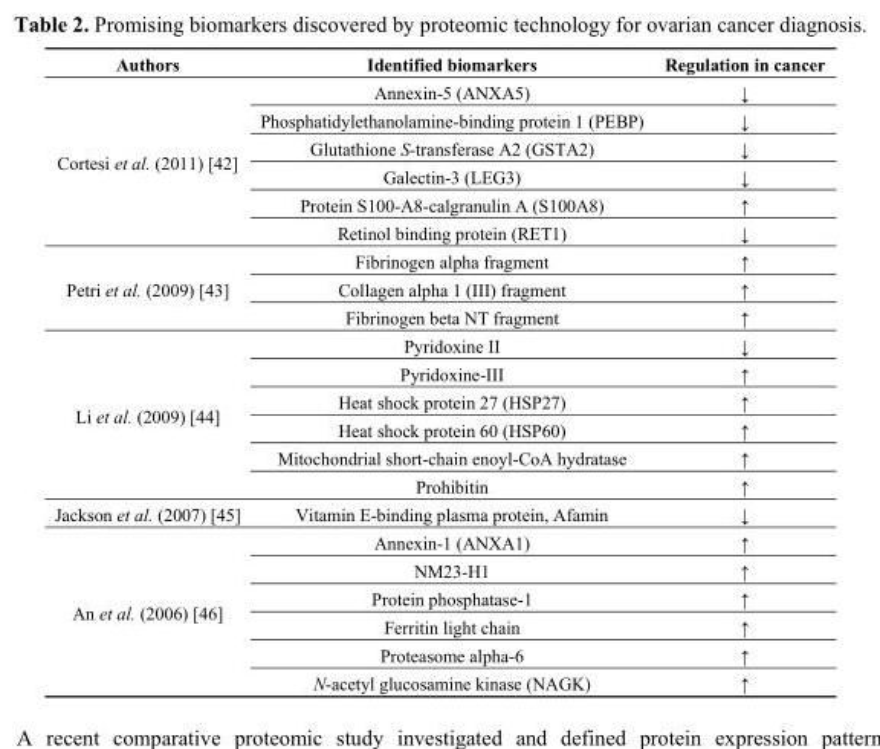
<table><thead><tr><td>Authors</td><td>Identified biomarkers</td><td>Regulation in cancer</td></tr></thead><tbody><tr><td rowspan="6">Cortesi et al. (2011) [42]</td><td>Annexin-5 (ANXA5)</td><td>↓</td></tr><tr><td>Phosphatidylethanolamine-binding protein 1 (PEBP)</td><td>↓</td></tr><tr><td>Glutathione S-transferase A2 (GSTA2)</td><td>↓</td></tr><tr><td>Galectin-3 (LEG3)</td><td>↓</td></tr><tr><td>Protein S100-A8-calgranulin A (S100A8)</td><td>↑</td></tr><tr><td>Retinol binding protein (RET1)</td><td>↓</td></tr><tr><td rowspan="3">Petri et al. (2009) [43]</td><td>Fibrinogen alpha fragment</td><td>↑</td></tr><tr><td>Collagen alpha 1 (III) fragment</td><td>↑</td></tr><tr><td>Fibrinogen beta NT fragment</td><td>↑</td></tr><tr><td rowspan="6">Li et al. (2009) [44]</td><td>Pyridoxine II</td><td>↓</td></tr><tr><td>Pyridoxine-III</td><td>↑</td></tr><tr><td>Heat shock protein 27 (HSP27)</td><td>↑</td></tr><tr><td>Heat shock protein 60 (HSP60)</td><td>↑</td></tr><tr><td>Mitochondrial short-chain enoyl-CoA hydratase</td><td>↑</td></tr><tr><td>Prohibitin</td><td>↑</td></tr><tr><td>Jackson et al. (2007) [45]</td><td>Vitamin E-binding plasma protein, Afamin</td><td>↓</td></tr><tr><td rowspan="6">An et al. (2006) [46]</td><td>Annexin-1 (ANXA1)</td><td>↑</td></tr><tr><td>NM23-H1</td><td>↑</td></tr><tr><td>Protein phosphatase-1</td><td>↑</td></tr><tr><td>Ferritin light chain</td><td>↑</td></tr><tr><td>Proteasome alpha-6</td><td>↑</td></tr><tr><td>N-acetyl glucosamine kinase (NAGK)</td><td>↑</td></tr></tbody></table>